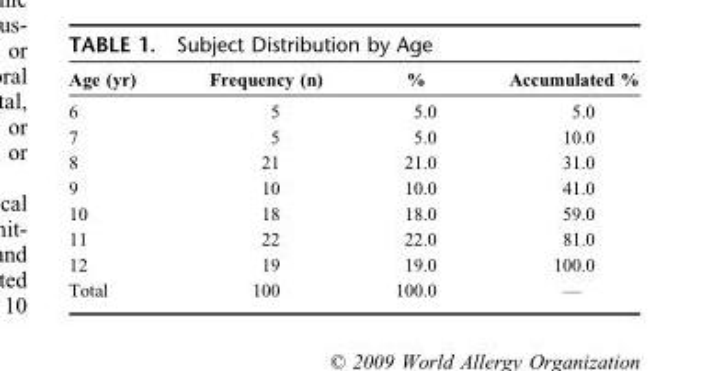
<table><thead><tr><td>Age (yr)</td><td>Frequency (n)</td><td>%</td><td>Accumulated %</td></tr></thead><tbody><tr><td>6</td><td>5</td><td>5.0</td><td>5.0</td></tr><tr><td>7</td><td>5</td><td>5.0</td><td>10.0</td></tr><tr><td>8</td><td>21</td><td>21.0</td><td>31.0</td></tr><tr><td>9</td><td>10</td><td>10.0</td><td>41.0</td></tr><tr><td>10</td><td>18</td><td>18.0</td><td>59.0</td></tr><tr><td>11</td><td>22</td><td>22.0</td><td>81.0</td></tr><tr><td>12</td><td>19</td><td>19.0</td><td>100.0</td></tr><tr><td>Total</td><td>100</td><td>100.0</td><td>—</td></tr></tbody></table>